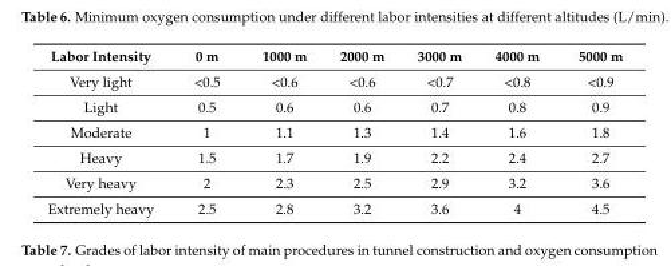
<table><thead><tr><td>Labor Intensity</td><td>0 m</td><td>1000 m</td><td>2000 m</td><td>3000 m</td><td>4000 m</td><td>5000 m</td></tr></thead><tbody><tr><td>Very light</td><td>&lt;0.5</td><td>&lt;0.6</td><td>&lt;0.6</td><td>&lt;0.7</td><td>&lt;0.8</td><td>&lt;0.9</td></tr><tr><td>Light</td><td>0.5</td><td>0.6</td><td>0.6</td><td>0.7</td><td>0.8</td><td>0.9</td></tr><tr><td>Moderate</td><td>1</td><td>1.1</td><td>1.3</td><td>1.4</td><td>1.6</td><td>1.8</td></tr><tr><td>Heavy</td><td>1.5</td><td>1.7</td><td>1.9</td><td>2.2</td><td>2.4</td><td>2.7</td></tr><tr><td>Very heavy</td><td>2</td><td>2.3</td><td>2.5</td><td>2.9</td><td>3.2</td><td>3.6</td></tr><tr><td>Extremely heavy</td><td>2.5</td><td>2.8</td><td>3.2</td><td>3.6</td><td>4</td><td>4.5</td></tr></tbody></table>